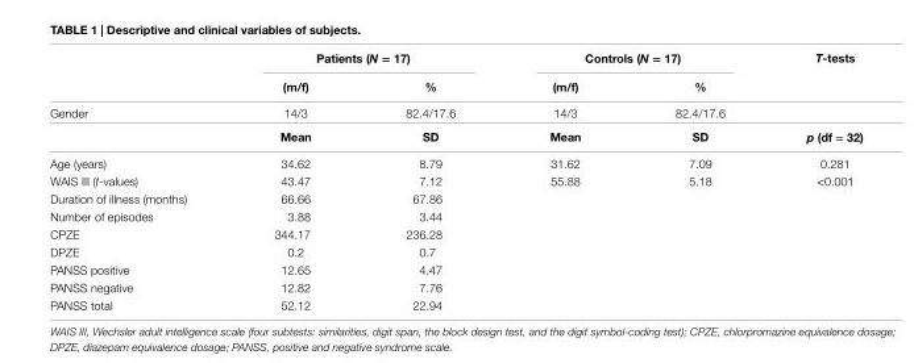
<table><thead><tr><td rowspan="2"></td><td colspan="2">Patients (N = 17)</td><td colspan="2">controls (N = 17)</td><td rowspan="2">T-tests</td></tr><tr><td>(m/f)</td><td>%</td><td>(m/f)</td><td>%</td></tr></thead><tbody><tr><td rowspan="2">Gender</td><td>14/3</td><td>82.4/17.6</td><td>14/3</td><td>82.4/17.6</td><td></td></tr><tr><td>Mean</td><td>sD</td><td>Mean</td><td>sD</td><td>p (df = 32)</td></tr><tr><td>Age (years)</td><td>34.62</td><td>8.79</td><td>31.62</td><td>7.09</td><td>0.281</td></tr><tr><td>WAIS III (t-values)</td><td>43.47</td><td>7.12</td><td>55.88</td><td>5.18</td><td>&lt;0.001</td></tr><tr><td>Duration of illness (months)</td><td>66.66</td><td>67.86</td><td></td><td></td><td></td></tr><tr><td>Number of episodes</td><td>3.88</td><td>3.44</td><td></td><td></td><td></td></tr><tr><td>CPZE</td><td>344.17</td><td>236.28</td><td></td><td></td><td></td></tr><tr><td>DPZE</td><td>0.2</td><td>0.7</td><td></td><td></td><td></td></tr><tr><td>PANSS positive</td><td>12.65</td><td>4.47</td><td></td><td></td><td></td></tr><tr><td>PANSS negative</td><td>12.82</td><td>7.76</td><td></td><td></td><td></td></tr><tr><td>PANSS total</td><td>52.12</td><td>22.94</td><td></td><td></td><td></td></tr></tbody></table>